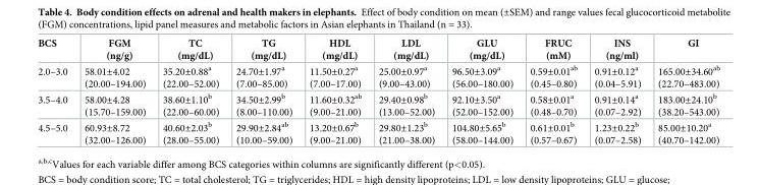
<table><thead><tr><td>BCS</td><td>FGM (ng/g)</td><td>TC (mg/dL)</td><td>TG (mg/dL)</td><td>HDL (mg/dL)</td><td>LDL (mg/dL)</td><td>GLU (mg/dL)</td><td>FRUC (mM)</td><td>INS (ng/ml)</td><td>GI</td></tr></thead><tbody><tr><td>2.0–3.0</td><td>58.01±4.02 (20.00–194.00)</td><td>35.20±0.88<sup>a</sup> (22.00–52.00)</td><td>24.70±1.97<sup>a</sup> (7.00–85.00)</td><td>11.50±0.27<sup>a</sup> (7.00–17.00)</td><td>25.00±0.97<sup>a</sup> (9.00–43.00)</td><td>96.50±3.09<sup>a</sup> (56.00–180.00)</td><td>0.59±0.01<sup>ab</sup> (0.45–0.80)</td><td>0.91±0.12<sup>a</sup> (0.04–5.91)</td><td>165.00±34.60<sup>ab</sup> (22.70–483.00)</td></tr><tr><td>3.5–4.0</td><td>58.00±4.28 (15.70–159.00)</td><td>38.60±1.10<sup>b</sup> (22.00–60.00)</td><td>34.50±2.99<sup>b</sup> (8.00–110.00)</td><td>11.60±0.32<sup>ab</sup> (9.00–21.00)</td><td>29.40±0.98<sup>b</sup> (13.00–52.00)</td><td>92.10±3.50<sup>a</sup> (52.00–152.00)</td><td>0.58±0.01<sup>a</sup> (0.48–0.70)</td><td>0.91±0.14<sup>a</sup> (0.07–2.92)</td><td>183.00±24.10<sup>b</sup> (38.20–543.00)</td></tr><tr><td>4.5–5.0</td><td>60.93±8.72 (32.00–126.00)</td><td>40.60±2.03<sup>b</sup> (28.00–55.00)</td><td>29.90±2.84<sup>ab</sup> (10.00–59.00)</td><td>13.20±0.67<sup>b</sup> (9.00–21.00)</td><td>29.80±1.23<sup>b</sup> (21.00–38.00)</td><td>104.80±5.65<sup>b</sup> (58.00–144.00)</td><td>0.61±0.01<sup>b</sup> (0.57–0.67)</td><td>1.23±0.22<sup>b</sup> (0.07–2.58)</td><td>85.00±10.20<sup>a</sup> (40.70–142.00)</td></tr></tbody></table>